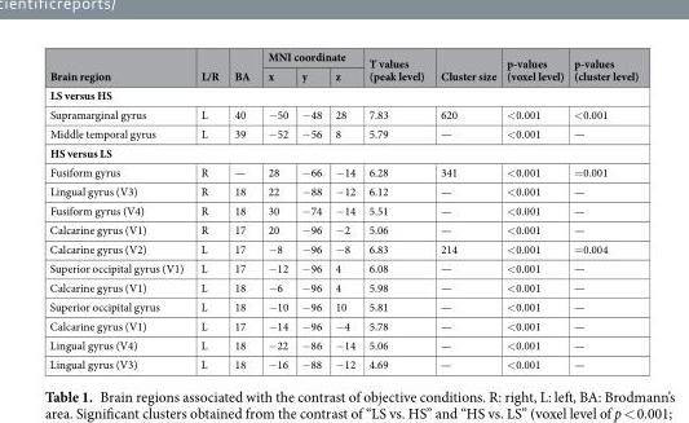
<table><thead><tr><td rowspan="2">Brain region</td><td rowspan="2">L/R</td><td rowspan="2">BA</td><td colspan="3">MNI coordinate</td><td rowspan="2">T values (peak level)</td><td rowspan="2">Cluster size</td><td rowspan="2">p-values (voxel level)</td><td rowspan="2">p-values (cluster level)</td></tr><tr><td>x</td><td>y</td><td>z</td></tr></thead><tbody><tr><td colspan="10">LS versus HS</td></tr><tr><td>Supramarginal gyrus</td><td>L</td><td>40</td><td>−50</td><td>−48</td><td>28</td><td>7.83</td><td>620</td><td>&lt;0.001</td><td>&lt;0.001</td></tr><tr><td>Middle temporal gyrus</td><td>L</td><td>39</td><td>−52</td><td>−56</td><td>8</td><td>5.79</td><td>—</td><td>&lt;0.001</td><td>—</td></tr><tr><td colspan="10">HS versus LS</td></tr><tr><td>Fusiform gyrus</td><td>R</td><td>—</td><td>28</td><td>−66</td><td>−14</td><td>6.28</td><td>341</td><td>&lt;0.001</td><td>=0.001</td></tr><tr><td>Lingual gyrus (V3)</td><td>R</td><td>18</td><td>22</td><td>−88</td><td>−12</td><td>6.12</td><td>—</td><td>&lt;0.001</td><td>—</td></tr><tr><td>Fusiform gyrus (V4)</td><td>R</td><td>18</td><td>30</td><td>−74</td><td>−14</td><td>5.51</td><td>—</td><td>&lt;0.001</td><td>—</td></tr><tr><td>Calcarine gyrus (V1)</td><td>R</td><td>17</td><td>20</td><td>−96</td><td>−2</td><td>5.06</td><td>—</td><td>&lt;0.001</td><td>—</td></tr><tr><td>Calcarine gyrus (V2)</td><td>L</td><td>17</td><td>−8</td><td>−96</td><td>−8</td><td>6.83</td><td>214</td><td>&lt;0.001</td><td>=0.004</td></tr><tr><td>Superior occipital gyrus (V1)</td><td>L</td><td>17</td><td>−12</td><td>−96</td><td>4</td><td>6.08</td><td>—</td><td>&lt;0.001</td><td>—</td></tr><tr><td>Calcarine gyrus (V1)</td><td>L</td><td>18</td><td>−6</td><td>−96</td><td>4</td><td>5.98</td><td>—</td><td>&lt;0.001</td><td>—</td></tr><tr><td>Superior occipital gyrus</td><td>L</td><td>18</td><td>−10</td><td>−96</td><td>10</td><td>5.81</td><td>—</td><td>&lt;0.001</td><td>—</td></tr><tr><td>Calcarine gyrus (V1)</td><td>L</td><td>17</td><td>−14</td><td>−96</td><td>−4</td><td>5.78</td><td>—</td><td>&lt;0.001</td><td>—</td></tr><tr><td>Lingual gyrus (V4)</td><td>L</td><td>18</td><td>−22</td><td>−86</td><td>−14</td><td>5.06</td><td>—</td><td>&lt;0.001</td><td>—</td></tr><tr><td>Lingual gyrus (V3)</td><td>L</td><td>18</td><td>−16</td><td>−88</td><td>−12</td><td>4.69</td><td>—</td><td>&lt;0.001</td><td>—</td></tr></tbody></table>